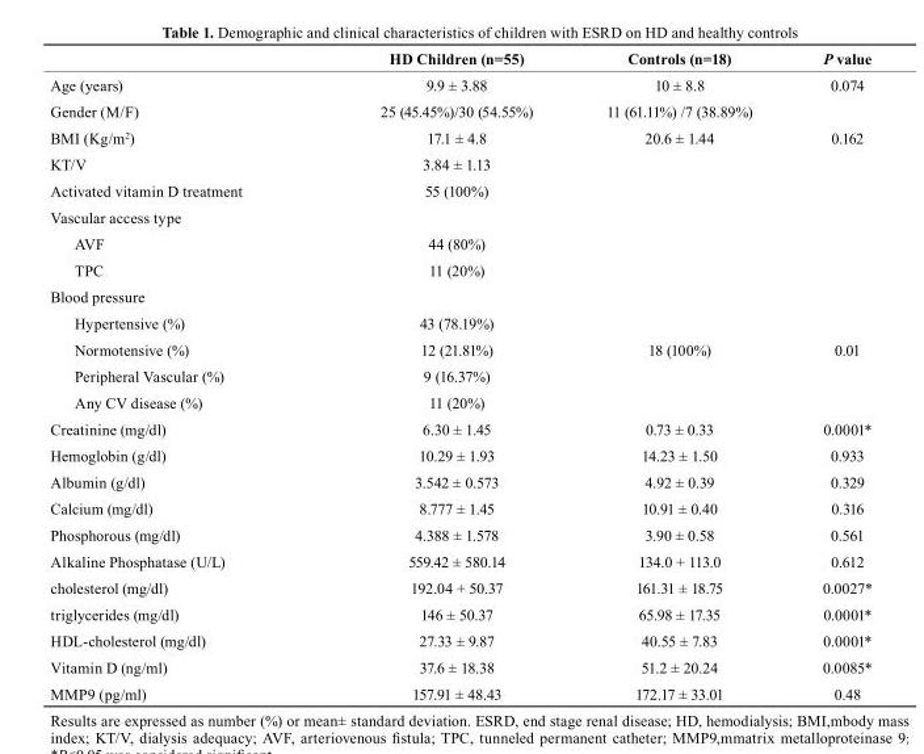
<table><thead><tr><td></td><td>HD Children (n=55)</td><td>Controls (n=18)</td><td>P value</td></tr></thead><tbody><tr><td>Age (years)</td><td>9.9 ± 3.88</td><td>10 ± 8.8</td><td>0.074</td></tr><tr><td>Gender (M/F)</td><td>25 (45.45%)/30 (54.55%)</td><td>11 (61.11%) /7 (38.89%)</td><td></td></tr><tr><td>BMI (Kg/m2)</td><td>17.1 ± 4.8</td><td>20.6 ± 1.44</td><td>0.162</td></tr><tr><td>KT/V</td><td>3.84 ± 1.13</td><td></td><td></td></tr><tr><td>Activated vitamin D treatment</td><td>55 (100%)</td><td></td><td></td></tr><tr><td colspan="4">Vascular access type</td></tr><tr><td>AVF</td><td>44 (80%)</td><td></td><td></td></tr><tr><td>TPC</td><td>11 (20%)</td><td></td><td></td></tr><tr><td colspan="4">Blood pressure</td></tr><tr><td>Hypertensive (%)</td><td>43 (78.19%)</td><td></td><td></td></tr><tr><td>Normotensive (%)</td><td>12 (21.81%)</td><td>18 (100%)</td><td>0.01</td></tr><tr><td>Peripheral Vascular (%)</td><td>9 (16.37%)</td><td></td><td></td></tr><tr><td>Any CV disease (%)</td><td>11 (20%)</td><td></td><td></td></tr><tr><td>Creatinine (mg/dl)</td><td>6.30 ± 1.45</td><td>0.73 ± 0.33</td><td>0.0001*</td></tr><tr><td>Hemoglobin (g/dl)</td><td>10.29 ± 1.93</td><td>14.23 ± 1.50</td><td>0.933</td></tr><tr><td>Albumin (g/dl)</td><td>3.542 ± 0.573</td><td>4.92 ± 0.39</td><td>0.329</td></tr><tr><td>Calcium (mg/dl)</td><td>8.777 ± 1.45</td><td>10.91 ± 0.40</td><td>0.316</td></tr><tr><td>Phosphorous (mg/dl)</td><td>4.388 ± 1.578</td><td>3.90 ± 0.58</td><td>0.561</td></tr><tr><td>Alkaline Phosphatase (U/L)</td><td>559.42 ± 580.14</td><td>134.0 + 113.0</td><td>0.612</td></tr><tr><td>cholesterol (mg/dl)</td><td>192.04 + 50.37</td><td>161.31 ± 18.75</td><td>0.0027*</td></tr><tr><td>triglycerides (mg/dl)</td><td>146 ± 50.37</td><td>65.98 ± 17.35</td><td>0.0001*</td></tr><tr><td>HDL-cholesterol (mg/dl)</td><td>27.33 ± 9.87</td><td>40.55 ± 7.83</td><td>0.0001*</td></tr><tr><td>Vitamin D (ng/ml)</td><td>37.6 ± 18.38</td><td>51.2 ± 20.24</td><td>0.0085*</td></tr><tr><td>MMP9 (pg/ml)</td><td>157.91 ± 48.43</td><td>172.17 ± 33.01</td><td>0.48</td></tr></tbody></table>